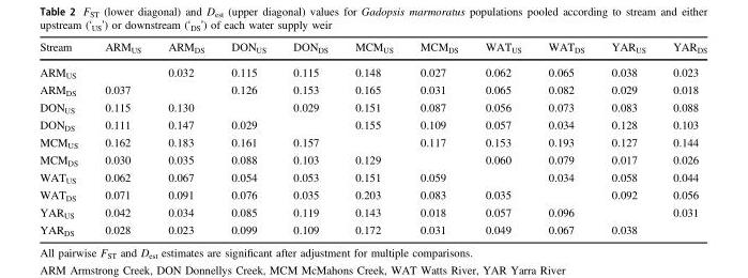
<table><thead><tr><td>Stream</td><td>ARM<sub>US</sub></td><td>ARM<sub>DS</sub></td><td>DON<sub>US</sub></td><td>DON<sub>DS</sub></td><td>MCM<sub>US</sub></td><td>MCM<sub>DS</sub></td><td>WAT<sub>US</sub></td><td>WAT<sub>DS</sub></td><td>YAR<sub>US</sub></td><td>YAR<sub>DS</sub></td></tr></thead><tbody><tr><td>ARM<sub>US</sub></td><td></td><td>0.032</td><td>0.115</td><td>0.115</td><td>0.148</td><td>0.027</td><td>0.062</td><td>0.065</td><td>0.038</td><td>0.023</td></tr><tr><td>ARM<sub>DS</sub></td><td>0.037</td><td></td><td>0.126</td><td>0.153</td><td>0.165</td><td>0.031</td><td>0.065</td><td>0.082</td><td>0.029</td><td>0.018</td></tr><tr><td>DON<sub>US</sub></td><td>0.115</td><td>0.130</td><td></td><td>0.029</td><td>0.151</td><td>0.087</td><td>0.056</td><td>0.073</td><td>0.083</td><td>0.088</td></tr><tr><td>DON<sub>DS</sub></td><td>0.111</td><td>0.147</td><td>0.029</td><td></td><td>0.155</td><td>0.109</td><td>0.057</td><td>0.034</td><td>0.128</td><td>0.103</td></tr><tr><td>MCM<sub>US</sub></td><td>0.162</td><td>0.183</td><td>0.161</td><td>0.157</td><td></td><td>0.117</td><td>0.153</td><td>0.193</td><td>0.127</td><td>0.144</td></tr><tr><td>MCM<sub>DS</sub></td><td>0.030</td><td>0.035</td><td>0.088</td><td>0.103</td><td>0.129</td><td></td><td>0.060</td><td>0.079</td><td>0.017</td><td>0.026</td></tr><tr><td>WAT<sub>US</sub></td><td>0.062</td><td>0.067</td><td>0.054</td><td>0.053</td><td>0.151</td><td>0.059</td><td></td><td>0.034</td><td>0.058</td><td>0.044</td></tr><tr><td>WAT<sub>DS</sub></td><td>0.071</td><td>0.091</td><td>0.076</td><td>0.035</td><td>0.203</td><td>0.083</td><td>0.035</td><td></td><td>0.092</td><td>0.056</td></tr><tr><td>YAR<sub>US</sub></td><td>0.042</td><td>0.034</td><td>0.085</td><td>0.119</td><td>0.143</td><td>0.018</td><td>0.057</td><td>0.096</td><td></td><td>0.031</td></tr><tr><td>YAR<sub>DS</sub></td><td>0.028</td><td>0.023</td><td>0.099</td><td>0.109</td><td>0.172</td><td>0.031</td><td>0.049</td><td>0.067</td><td>0.038</td><td></td></tr></tbody></table>